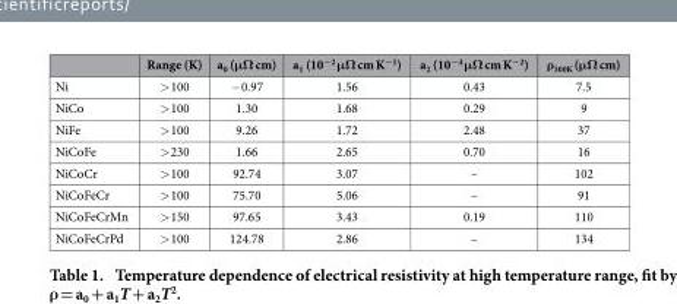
<table><thead><tr><td></td><td>Range (K)</td><td>a<sub>0</sub> (μΩ cm)</td><td>a<sub>1</sub> (10<sup>−2</sup> μΩ cm K<sup>−1</sup>)</td><td>a2 (10−4 μΩ cm K−2)</td><td>ρ<sub>300K</sub> (μΩ cm)</td></tr></thead><tbody><tr><td>Ni</td><td>&gt; 100</td><td>− 0.97</td><td>1.56</td><td>0.43</td><td>7.5</td></tr><tr><td>NiCo</td><td>&gt; 100</td><td>1.30</td><td>1.68</td><td>0.29</td><td>9</td></tr><tr><td>NiFe</td><td>&gt; 100</td><td>9.26</td><td>1.72</td><td>2.48</td><td>37</td></tr><tr><td>NiCoFe</td><td>&gt; 230</td><td>1.66</td><td>2.65</td><td>0.70</td><td>16</td></tr><tr><td>NiCoCr</td><td>&gt; 100</td><td>92.74</td><td>3.07</td><td>–</td><td>102</td></tr><tr><td>NiCoFeCr</td><td>&gt; 100</td><td>75.70</td><td>5.06</td><td>–</td><td>91</td></tr><tr><td>NiCoFeCrMn</td><td>&gt; 150</td><td>97.65</td><td>3.43</td><td>0.19</td><td>110</td></tr><tr><td>NiCoFeCrPd</td><td>&gt; 100</td><td>124.78</td><td>2.86</td><td>–</td><td>134</td></tr></tbody></table>